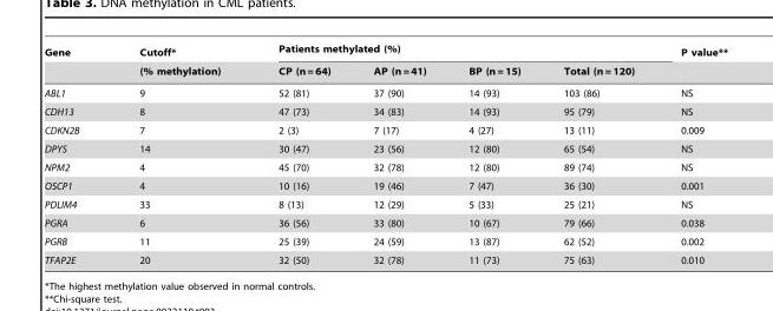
<table><thead><tr><td rowspan="2">Gene</td><td rowspan="2">Cutoff* (% methylation)</td><td colspan="4">Patients methylated (%)</td><td rowspan="2">P value**</td></tr><tr><td>CP (n = 64)</td><td>AP (n = 41)</td><td>BP (n = 15)</td><td>Total (n = 120)</td></tr></thead><tbody><tr><td>ABL1</td><td>9</td><td>52 (81)</td><td>37 (90)</td><td>14 (93)</td><td>103 (86)</td><td>NS</td></tr><tr><td>CDH13</td><td>8</td><td>47 (73)</td><td>34 (83)</td><td>14 (93)</td><td>95 (79)</td><td>NS</td></tr><tr><td>CDKN2B</td><td>7</td><td>2 (3)</td><td>7 (17)</td><td>4 (27)</td><td>13 (11)</td><td>0.009</td></tr><tr><td>DPYS</td><td>14</td><td>30 (47)</td><td>23 (56)</td><td>12 (80)</td><td>65 (54)</td><td>NS</td></tr><tr><td>NPM2</td><td>4</td><td>45 (70)</td><td>32 (78)</td><td>12 (80)</td><td>89 (74)</td><td>NS</td></tr><tr><td>OSCP1</td><td>4</td><td>10 (16)</td><td>19 (46)</td><td>7 (47)</td><td>36 (30)</td><td>0.001</td></tr><tr><td>PDLIM4</td><td>33</td><td>8 (13)</td><td>12 (29)</td><td>5 (33)</td><td>25 (21)</td><td>NS</td></tr><tr><td>PGRA</td><td>6</td><td>36 (56)</td><td>33 (80)</td><td>10 (67)</td><td>79 (66)</td><td>0.038</td></tr><tr><td>PGRB</td><td>11</td><td>25 (39)</td><td>24 (59)</td><td>13 (87)</td><td>62 (52)</td><td>0.002</td></tr><tr><td>TFAP2E</td><td>20</td><td>32 (50)</td><td>32 (78)</td><td>11 (73)</td><td>75 (63)</td><td>0.010</td></tr></tbody></table>